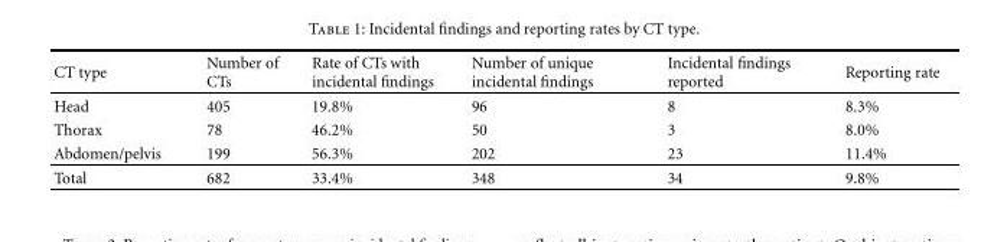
<table><thead><tr><td>CT type</td><td>Number of CTs</td><td>Rate of CTs with incidental findings</td><td>Number of unique incidental findings</td><td>Incidental findings reported</td><td>Reporting rate</td></tr></thead><tbody><tr><td>Head</td><td>405</td><td>19.8%</td><td>96</td><td>8</td><td>8.3%</td></tr><tr><td>Thorax</td><td>78</td><td>46.2%</td><td>50</td><td>3</td><td>8.0%</td></tr><tr><td>Abdomen/pelvis</td><td>199</td><td>56.3%</td><td>202</td><td>23</td><td>11.4%</td></tr><tr><td>Total</td><td>682</td><td>33.4%</td><td>348</td><td>34</td><td>9.8%</td></tr></tbody></table>